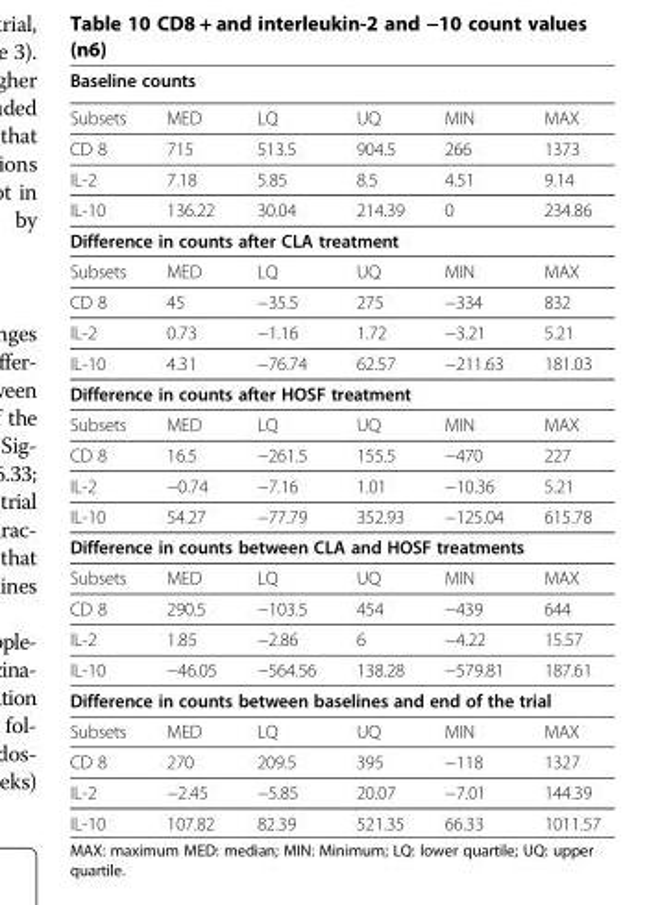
<table><thead><tr><td colspan="6">Baseline counts</td></tr><tr><td>Subsets</td><td>MED</td><td>LQ</td><td>UQ</td><td>MIN</td><td>MAX</td></tr></thead><tbody><tr><td>CD 8</td><td>715</td><td>513.5</td><td>904.5</td><td>266</td><td>1373</td></tr><tr><td>IL-2</td><td>7.18</td><td>5.85</td><td>8.5</td><td>4.51</td><td>9.14</td></tr><tr><td>IL-10</td><td>136.22</td><td>30.04</td><td>214.39</td><td>0</td><td>234.86</td></tr><tr><td colspan="6">Difference in counts after CLA treatment</td></tr><tr><td>Subsets</td><td>MED</td><td>LQ</td><td>UQ</td><td>MIN</td><td>MAX</td></tr><tr><td>CD 8</td><td>45</td><td>−35.5</td><td>275</td><td>−334</td><td>832</td></tr><tr><td>IL-2</td><td>0.73</td><td>−1.16</td><td>1.72</td><td>−3.21</td><td>5.21</td></tr><tr><td>IL-10</td><td>4.31</td><td>−76.74</td><td>62.57</td><td>−211.63</td><td>181.03</td></tr><tr><td colspan="6">Difference in counts after HOSF treatment</td></tr><tr><td>Subsets</td><td>MED</td><td>LQ</td><td>UQ</td><td>MIN</td><td>MAX</td></tr><tr><td>CD 8</td><td>16.5</td><td>−261.5</td><td>155.5</td><td>−470</td><td>227</td></tr><tr><td>IL-2</td><td>−0.74</td><td>−7.16</td><td>1.01</td><td>−10.36</td><td>5.21</td></tr><tr><td>IL-10</td><td>54.27</td><td>−77.79</td><td>352.93</td><td>−125.04</td><td>615.78</td></tr><tr><td colspan="6">Difference in counts between CLA and HOSF treatments</td></tr><tr><td>Subsets</td><td>MED</td><td>LQ</td><td>UQ</td><td>MIN</td><td>MAX</td></tr><tr><td>CD 8</td><td>290.5</td><td>−103.5</td><td>454</td><td>−439</td><td>644</td></tr><tr><td>IL-2</td><td>1.85</td><td>−2.86</td><td>6</td><td>−4.22</td><td>15.57</td></tr><tr><td>IL-10</td><td>−46.05</td><td>−564.56</td><td>138.28</td><td>−579.81</td><td>187.61</td></tr><tr><td colspan="6">Difference in counts between baselines and end of the trial</td></tr><tr><td>Subsets</td><td>MED</td><td>LQ</td><td>UQ</td><td>MIN</td><td>MAX</td></tr><tr><td>CD 8</td><td>270</td><td>209.5</td><td>395</td><td>−118</td><td>1327</td></tr><tr><td>IL-2</td><td>−2.45</td><td>−5.85</td><td>20.07</td><td>−7.01</td><td>144.39</td></tr><tr><td>IL-10</td><td>107.82</td><td>82.39</td><td>521.35</td><td>66.33</td><td>1011.57</td></tr></tbody></table>